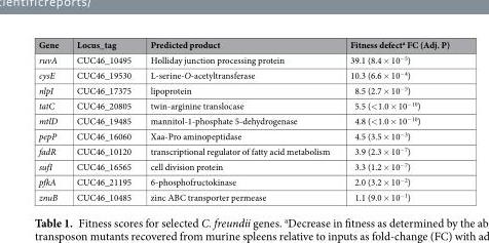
<table><thead><tr><td>Gene</td><td>Locus_tag</td><td>Predicted product</td><td>Fitness defect<sup>a</sup> FC (Adj. P)</td></tr></thead><tbody><tr><td>ruvA</td><td>CUC46_10495</td><td>Holliday junction processing protein</td><td>39.1 (8.4 × 10<sup>−5</sup>)</td></tr><tr><td>cysE</td><td>CUC46_19530</td><td>L-serine-O-acetyltransferase</td><td>10.3 (6.6 × 10<sup>−4</sup>)</td></tr><tr><td>nlpI</td><td>CUC46_17375</td><td>lipoprotein</td><td>8.5 (2.7 × 10<sup>−5</sup>)</td></tr><tr><td>tatC</td><td>CUC46_20805</td><td>twin-arginine translocase</td><td>5.5 (&lt;1.0 × 10<sup>−10</sup>)</td></tr><tr><td>mtlD</td><td>CUC46_19485</td><td>mannitol-1-phosphate 5-dehydrogenase</td><td>4.8 (&lt;1.0 × 10<sup>−10</sup>)</td></tr><tr><td>pepP</td><td>CUC46_16060</td><td>Xaa-Pro aminopeptidase</td><td>4.5 (3.5 × 10<sup>−3</sup>)</td></tr><tr><td>fadR</td><td>CUC46_10120</td><td>transcriptional regulator of fatty acid metabolism</td><td>3.9 (2.3 × 10<sup>−7</sup>)</td></tr><tr><td>sufI</td><td>CUC46_16565</td><td>cell division protein</td><td>3.3 (1.2 × 10<sup>−7</sup>)</td></tr><tr><td>pfkA</td><td>CUC46_21195</td><td>6-phosphofructokinase</td><td>2.0 (3.2 × 10<sup>−2</sup>)</td></tr><tr><td>znuB</td><td>CUC46_10485</td><td>zinc ABC transporter permease</td><td>1.1 (9.0 × 10<sup>−1</sup>)</td></tr></tbody></table>